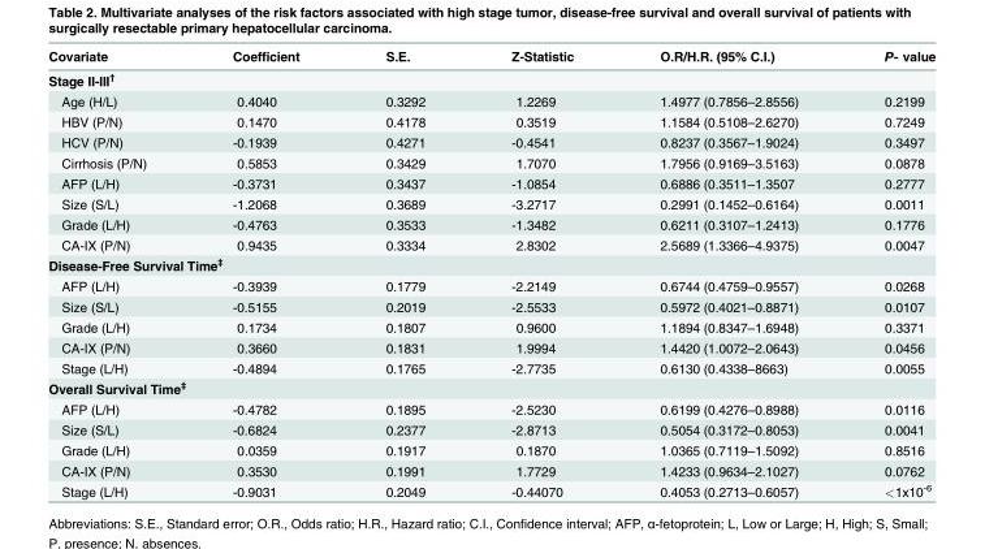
<table><thead><tr><td>Covariate</td><td>Coefficient</td><td>S.E.</td><td>Z-Statistic</td><td>O.R/H.R. (95% C.I.)</td><td>P- value</td></tr></thead><tbody><tr><td colspan="6">Stage II-III<sup>†</sup></td></tr><tr><td>Age (H/L)</td><td>0.4040</td><td>0.3292</td><td>1.2269</td><td>1.4977 (0.7856–2.8556)</td><td>0.2199</td></tr><tr><td>HBV (P/N)</td><td>0.1470</td><td>0.4178</td><td>0.3519</td><td>1.1584 (0.5108–2.6270)</td><td>0.7249</td></tr><tr><td>HCV (P/N)</td><td>-0.1939</td><td>0.4271</td><td>-0.4541</td><td>0.8237 (0.3567–1.9024)</td><td>0.3497</td></tr><tr><td>Cirrhosis (P/N)</td><td>0.5853</td><td>0.3429</td><td>1.7070</td><td>1.7956 (0.9169–3.5163)</td><td>0.0878</td></tr><tr><td>AFP (L/H)</td><td>-0.3731</td><td>0.3437</td><td>-1.0854</td><td>0.6886 (0.3511–1.3507</td><td>0.2777</td></tr><tr><td>Size (S/L)</td><td>-1.2068</td><td>0.3689</td><td>-3.2717</td><td>0.2991 (0.1452–0.6164)</td><td>0.0011</td></tr><tr><td>Grade (L/H)</td><td>-0.4763</td><td>0.3533</td><td>-1.3482</td><td>0.6211 (0.3107–1.2413)</td><td>0.1776</td></tr><tr><td>CA-IX (P/N)</td><td>0.9435</td><td>0.3334</td><td>2.8302</td><td>2.5689 (1.3366–4.9375)</td><td>0.0047</td></tr><tr><td colspan="6">Disease-Free Survival Time<sup>‡</sup></td></tr><tr><td>AFP (L/H)</td><td>-0.3939</td><td>0.1779</td><td>-2.2149</td><td>0.6744 (0.4759–0.9557)</td><td>0.0268</td></tr><tr><td>Size (S/L)</td><td>-0.5155</td><td>0.2019</td><td>-2.5533</td><td>0.5972 (0.4021–0.8871)</td><td>0.0107</td></tr><tr><td>Grade (L/H)</td><td>0.1734</td><td>0.1807</td><td>0.9600</td><td>1.1894 (0.8347–1.6948)</td><td>0.3371</td></tr><tr><td>CA-IX (P/N)</td><td>0.3660</td><td>0.1831</td><td>1.9994</td><td>1.4420 (1.0072–2.0643)</td><td>0.0456</td></tr><tr><td>Stage (L/H)</td><td>-0.4894</td><td>0.1765</td><td>-2.7735</td><td>0.6130 (0.4338–8663)</td><td>0.0055</td></tr><tr><td colspan="6">Overall Survival Time<sup>‡</sup></td></tr><tr><td>AFP (L/H)</td><td>-0.4782</td><td>0.1895</td><td>-2.5230</td><td>0.6199 (0.4276–0.8988)</td><td>0.0116</td></tr><tr><td>Size (S/L)</td><td>-0.6824</td><td>0.2377</td><td>-2.8713</td><td>0.5054 (0.3172–0.8053)</td><td>0.0041</td></tr><tr><td>Grade (L/H)</td><td>0.0359</td><td>0.1917</td><td>0.1870</td><td>1.0365 (0.7119–1.5092)</td><td>0.8516</td></tr><tr><td>CA-IX (P/N)</td><td>0.3530</td><td>0.1991</td><td>1.7729</td><td>1.4233 (0.9634–2.1027)</td><td>0.0762</td></tr><tr><td>Stage (L/H)</td><td>-0.9031</td><td>0.2049</td><td>-0.44070</td><td>0.4053 (0.2713–0.6057)</td><td>&lt;1x10<sup>-6</sup></td></tr></tbody></table>